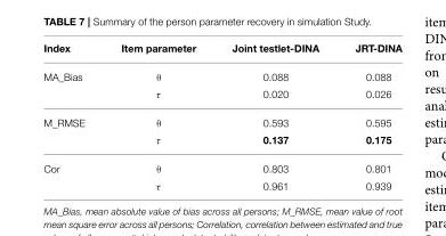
<table><thead><tr><td>Index</td><td>Item parameter</td><td>Joint testlet-DINA</td><td>JRT-DINA</td></tr></thead><tbody><tr><td rowspan="2">MA_Bias</td><td>θ</td><td>0.088</td><td>0.088</td></tr><tr><td>τ</td><td>0.020</td><td>0.026</td></tr><tr><td rowspan="2">M_RMSE</td><td>θ</td><td>0.593</td><td>0.595</td></tr><tr><td>τ</td><td>0.137</td><td>0.175</td></tr><tr><td rowspan="2">Cor</td><td>θ</td><td>0.803</td><td>0.801</td></tr><tr><td>τ</td><td>0.961</td><td>0.939</td></tr></tbody></table>